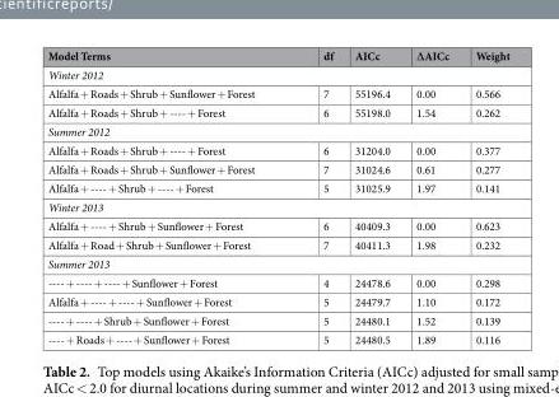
<table><thead><tr><td>Model Terms</td><td>df</td><td>AICc</td><td>∆AICc</td><td>Weight</td></tr></thead><tbody><tr><td colspan="5">Winter 2012</td></tr><tr><td>Alfalfa + Roads + Shrub + Sunflower + Forest</td><td>7</td><td>55196.4</td><td>0.00</td><td>0.566</td></tr><tr><td>Alfalfa + Roads + Shrub + ---- + Forest</td><td>6</td><td>55198.0</td><td>1.54</td><td>0.262</td></tr><tr><td colspan="5">Summer 2012</td></tr><tr><td>Alfalfa + Roads + Shrub + ---- + Forest</td><td>6</td><td>31204.0</td><td>0.00</td><td>0.377</td></tr><tr><td>Alfalfa + Roads + Shrub + Sunflower + Forest</td><td>7</td><td>31024.6</td><td>0.61</td><td>0.277</td></tr><tr><td>Alfalfa + ---- + Shrub + ---- + Forest</td><td>5</td><td>31025.9</td><td>1.97</td><td>0.141</td></tr><tr><td colspan="5">Winter 2013</td></tr><tr><td>Alfalfa + ---- + Shrub + Sunflower + Forest</td><td>6</td><td>40409.3</td><td>0.00</td><td>0.623</td></tr><tr><td>Alfalfa + Road + Shrub + Sunflower + Forest</td><td>7</td><td>40411.3</td><td>1.98</td><td>0.232</td></tr><tr><td colspan="5">Summer 2013</td></tr><tr><td>---- + ---- + ---- + Sunflower + Forest</td><td>4</td><td>24478.6</td><td>0.00</td><td>0.298</td></tr><tr><td>Alfalfa + ---- + ---- + Sunflower + Forest</td><td>5</td><td>24479.7</td><td>1.10</td><td>0.172</td></tr><tr><td>---- + ---- + Shrub + Sunflower + Forest</td><td>5</td><td>24480.1</td><td>1.52</td><td>0.139</td></tr><tr><td>---- + Roads + ---- + Sunflower + Forest</td><td>5</td><td>24480.5</td><td>1.89</td><td>0.116</td></tr></tbody></table>